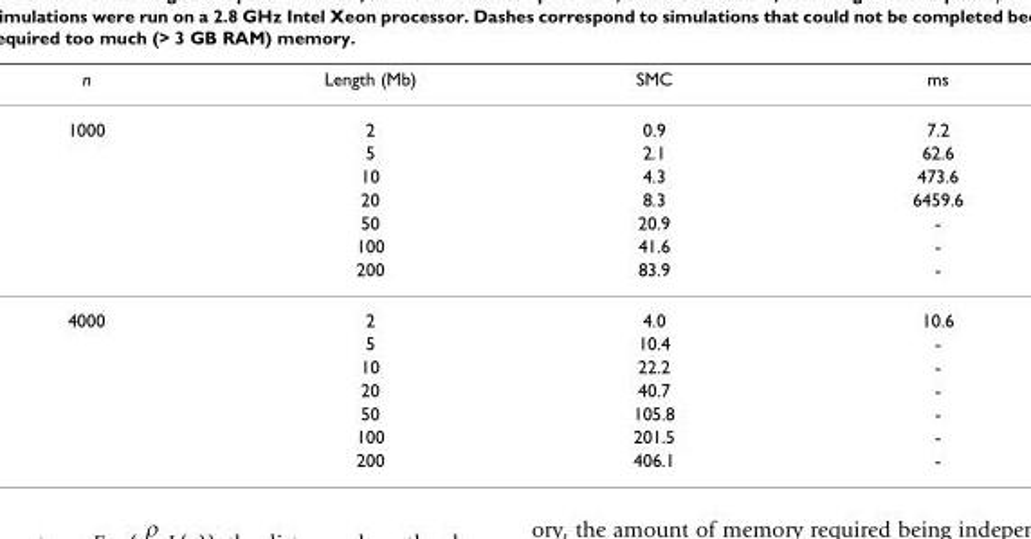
<table><thead><tr><td>n</td><td>Length (Mb)</td><td>SMC</td><td>ms</td></tr></thead><tbody><tr><td rowspan="7">1000</td><td>2</td><td>0.9</td><td>7.2</td></tr><tr><td>5</td><td>2.1</td><td>62.6</td></tr><tr><td>10</td><td>4.3</td><td>473.6</td></tr><tr><td>20</td><td>8.3</td><td>6459.6</td></tr><tr><td>50</td><td>20.9</td><td>-</td></tr><tr><td>100</td><td>41.6</td><td>-</td></tr><tr><td>200</td><td>83.9</td><td>-</td></tr><tr><td rowspan="7">4000</td><td>2</td><td>4.0</td><td>10.6</td></tr><tr><td>5</td><td>10.4</td><td>-</td></tr><tr><td>10</td><td>22.2</td><td>-</td></tr><tr><td>20</td><td>40.7</td><td>-</td></tr><tr><td>50</td><td>105.8</td><td>-</td></tr><tr><td>100</td><td>201.5</td><td>-</td></tr><tr><td>200</td><td>406.1</td><td>-</td></tr></tbody></table>